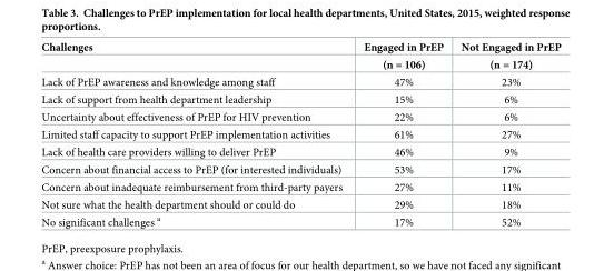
<table><thead><tr><td rowspan="2">Challenges</td><td rowspan="2">Engaged in PrEP (n = 106)</td><td rowspan="2">Not Engaged in PrEP (n = 174)</td></tr><tr></tr></thead><tbody><tr><td>Lack of PrEP awareness and knowledge among staff</td><td>47%</td><td>23%</td></tr><tr><td>Lack of support from health department leadership</td><td>15%</td><td>6%</td></tr><tr><td>Uncertainty about effectiveness of PrEP for HIV prevention</td><td>22%</td><td>6%</td></tr><tr><td>Limited staff capacity to support PrEP implementation activities</td><td>61%</td><td>27%</td></tr><tr><td>Lack of health care providers willing to deliver PrEP</td><td>46%</td><td>9%</td></tr><tr><td>Concern about financial access to PrEP (for interested individuals)</td><td>53%</td><td>17%</td></tr><tr><td>Concern about inadequate reimbursement from third-party payers</td><td>27%</td><td>11%</td></tr><tr><td>Not sure what the health department should or could do</td><td>29%</td><td>18%</td></tr><tr><td>No significant challenges <sup>a</sup></td><td>17%</td><td>52%</td></tr></tbody></table>